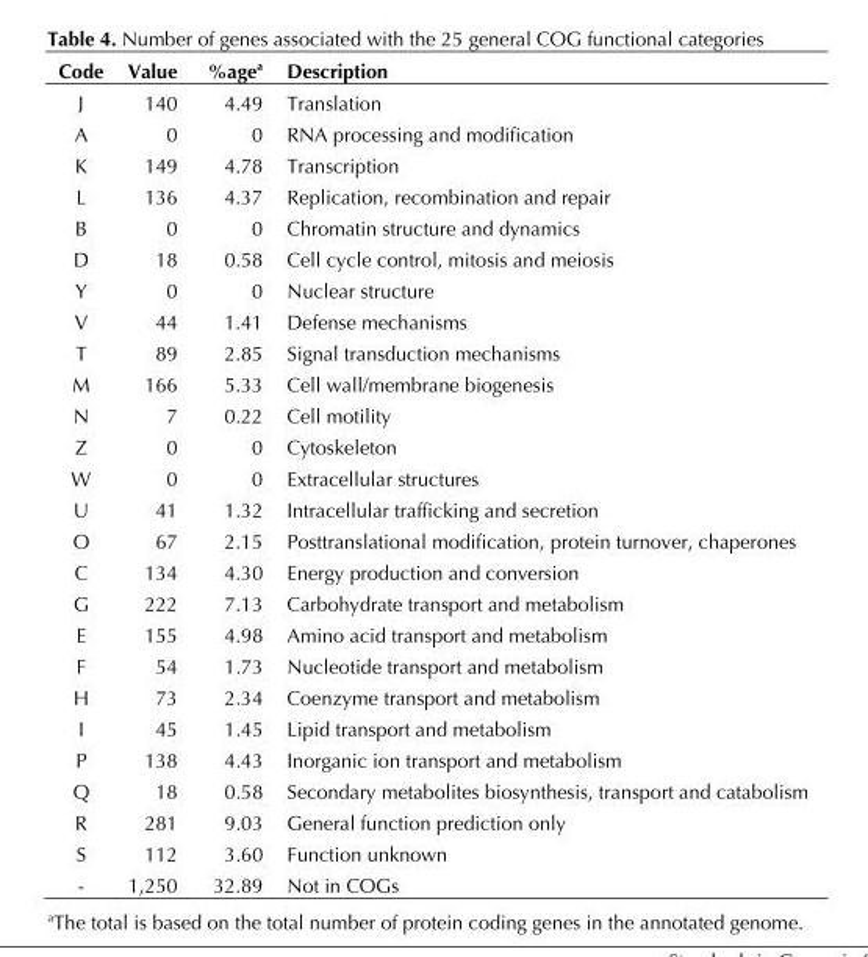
<table><thead><tr><td>Code</td><td>Value</td><td>%age<sup>a</sup></td><td>Description</td></tr></thead><tbody><tr><td>J</td><td>140</td><td>4.49</td><td>Translation</td></tr><tr><td>A</td><td>0</td><td>0</td><td>RNA processing and modification</td></tr><tr><td>K</td><td>149</td><td>4.78</td><td>Transcription</td></tr><tr><td>L</td><td>136</td><td>4.37</td><td>Replication, recombination and repair</td></tr><tr><td>B</td><td>0</td><td>0</td><td>Chromatin structure and dynamics</td></tr><tr><td>D</td><td>18</td><td>0.58</td><td>Cell cycle control, mitosis and meiosis</td></tr><tr><td>Y</td><td>0</td><td>0</td><td>Nuclear structure</td></tr><tr><td>V</td><td>44</td><td>1.41</td><td>Defense mechanisms</td></tr><tr><td>T</td><td>89</td><td>2.85</td><td>Signal transduction mechanisms</td></tr><tr><td>M</td><td>166</td><td>5.33</td><td>Cell wall/membrane biogenesis</td></tr><tr><td>N</td><td>7</td><td>0.22</td><td>Cell motility</td></tr><tr><td>Z</td><td>0</td><td>0</td><td>Cytoskeleton</td></tr><tr><td>W</td><td>0</td><td>0</td><td>Extracellular structures</td></tr><tr><td>U</td><td>41</td><td>1.32</td><td>Intracellular trafficking and secretion</td></tr><tr><td>O</td><td>67</td><td>2.15</td><td>Posttranslational modification, protein turnover, chaperones</td></tr><tr><td>C</td><td>134</td><td>4.30</td><td>Energy production and conversion</td></tr><tr><td>G</td><td>222</td><td>7.13</td><td>Carbohydrate transport and metabolism</td></tr><tr><td>E</td><td>155</td><td>4.98</td><td>Amino acid transport and metabolism</td></tr><tr><td>F</td><td>54</td><td>1.73</td><td>Nucleotide transport and metabolism</td></tr><tr><td>H</td><td>73</td><td>2.34</td><td>Coenzyme transport and metabolism</td></tr><tr><td>I</td><td>45</td><td>1.45</td><td>Lipid transport and metabolism</td></tr><tr><td>P</td><td>138</td><td>4.43</td><td>Inorganic ion transport and metabolism</td></tr><tr><td>Q</td><td>18</td><td>0.58</td><td>Secondary metabolites biosynthesis, transport and catabolism</td></tr><tr><td>R</td><td>281</td><td>9.03</td><td>General function prediction only</td></tr><tr><td>S</td><td>112</td><td>3.60</td><td>Function unknown</td></tr><tr><td>-</td><td>1,250</td><td>32.89</td><td>Not in COGs</td></tr></tbody></table>